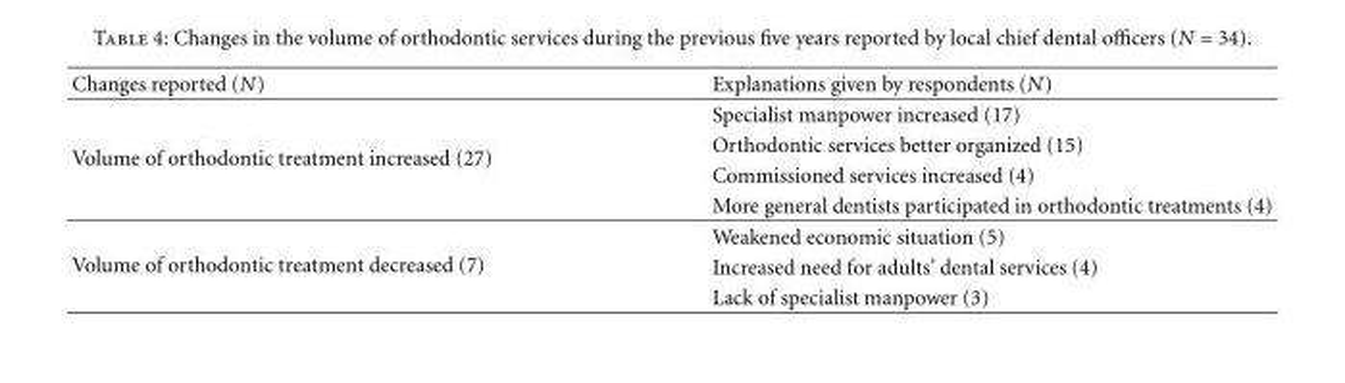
<table><thead><tr><td>Changes reported (N)</td><td>Explanations given by respondents (N)</td></tr></thead><tbody><tr><td rowspan="4">Volume of orthodontic treatment increased (27)</td><td>Specialist manpower increased (17)</td></tr><tr><td>Orthodontic services better organized (15)</td></tr><tr><td>Commissioned services increased (4)</td></tr><tr><td>More general dentists participated in orthodontic treatments (4)</td></tr><tr><td rowspan="3">Volume of orthodontic treatment decreased (7)</td><td>Weakened economic situation (5)</td></tr><tr><td>Increased need for adults’ dental services (4)</td></tr><tr><td>Lack of specialist manpower (3)</td></tr></tbody></table>